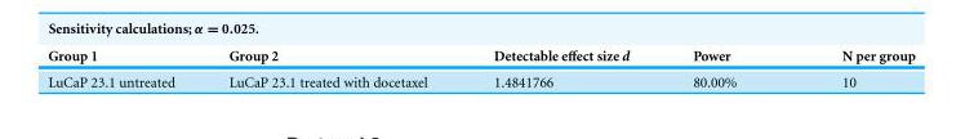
<table><thead><tr><td>Group 1</td><td>Group 2</td><td>Detectable effect size d</td><td>Power</td><td>N per group</td></tr></thead><tbody><tr><td>LuCaP 23.1 untreated</td><td>LuCaP 23.1 treated with docetaxel</td><td>1.4841766</td><td>80.00%</td><td>10</td></tr></tbody></table>